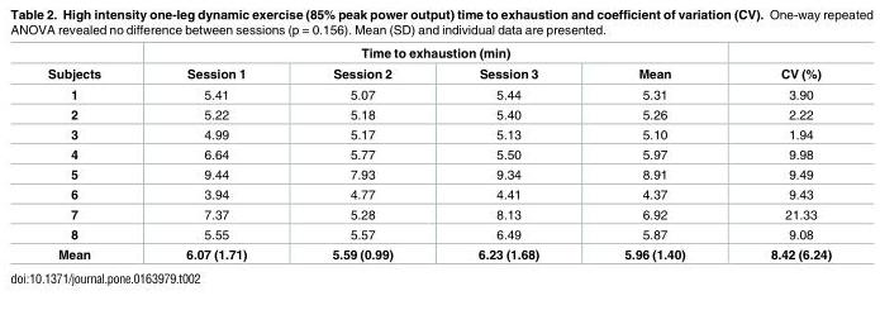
<table><thead><tr><td rowspan="2">Subjects</td><td colspan="4">Time to exhaustion (min)</td><td rowspan="2">CV (%)</td></tr><tr><td>Session 1</td><td>Session 2</td><td>Session 3</td><td>Mean</td></tr></thead><tbody><tr><td>1</td><td>5.41</td><td>5.07</td><td>5.44</td><td>5.31</td><td>3.90</td></tr><tr><td>2</td><td>5.22</td><td>5.18</td><td>5.40</td><td>5.26</td><td>2.22</td></tr><tr><td>3</td><td>4.99</td><td>5.17</td><td>5.13</td><td>5.10</td><td>1.94</td></tr><tr><td>4</td><td>6.64</td><td>5.77</td><td>5.50</td><td>5.97</td><td>9.98</td></tr><tr><td>5</td><td>9.44</td><td>7.93</td><td>9.34</td><td>8.91</td><td>9.49</td></tr><tr><td>6</td><td>3.94</td><td>4.77</td><td>4.41</td><td>4.37</td><td>9.43</td></tr><tr><td>7</td><td>7.37</td><td>5.28</td><td>8.13</td><td>6.92</td><td>21.33</td></tr><tr><td>8</td><td>5.55</td><td>5.57</td><td>6.49</td><td>5.87</td><td>9.08</td></tr><tr><td>Mean</td><td>6.07 (1.71)</td><td>5.59 (0.99)</td><td>6.23 (1.68)</td><td>5.96 (1.40)</td><td>8.42 (6.24)</td></tr></tbody></table>